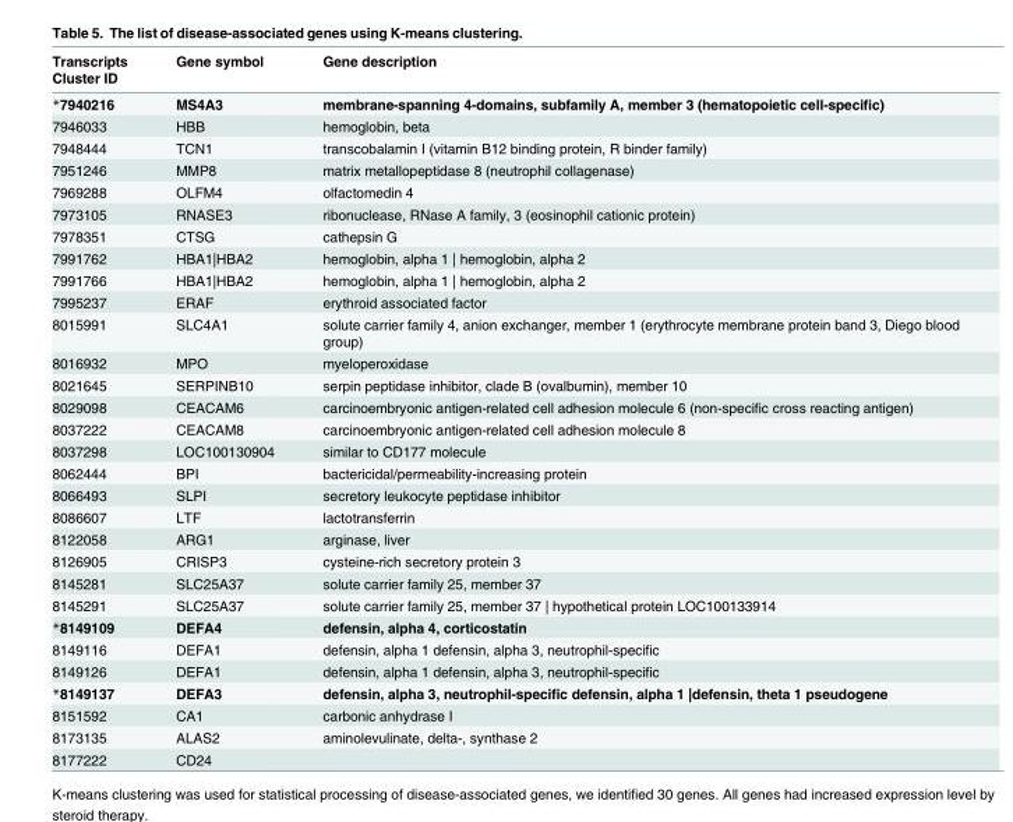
<table><thead><tr><td>Transcripts Cluster ID</td><td>Gene symbol</td><td>Gene description</td></tr></thead><tbody><tr><td>*7940216</td><td>MS4A3</td><td>membrane-spanning 4-domains, subfamily A, member 3 (hematopoietic cell-specific)</td></tr><tr><td>7946033</td><td>HBB</td><td>hemoglobin, beta</td></tr><tr><td>7948444</td><td>TCN1</td><td>transcobalamin I (vitamin B12 binding protein, R binder family)</td></tr><tr><td>7951246</td><td>MMP8</td><td>matrix metallopeptidase 8 (neutrophil collagenase)</td></tr><tr><td>7969288</td><td>OLFM4</td><td>olfactomedin 4</td></tr><tr><td>7973105</td><td>RNASE3</td><td>ribonuclease, RNase A family, 3 (eosinophil cationic protein)</td></tr><tr><td>7978351</td><td>CTSG</td><td>cathepsin G</td></tr><tr><td>7991762</td><td>HBA1|HBA2</td><td>hemoglobin, alpha 1 | hemoglobin, alpha 2</td></tr><tr><td>7991766</td><td>HBA1|HBA2</td><td>hemoglobin, alpha 1 | hemoglobin, alpha 2</td></tr><tr><td>7995237</td><td>ERAF</td><td>erythroid associated factor</td></tr><tr><td>8015991</td><td>SLC4A1</td><td>solute carrier family 4, anion exchanger, member 1 (erythrocyte membrane protein band 3, Diego blood group)</td></tr><tr><td>8016932</td><td>MPO</td><td>myeloperoxidase</td></tr><tr><td>8021645</td><td>SERPINB10</td><td>serpin peptidase inhibitor, clade B (ovalbumin), member 10</td></tr><tr><td>8029098</td><td>CEACAM6</td><td>carcinoembryonic antigen-related cell adhesion molecule 6 (non-specific cross reacting antigen)</td></tr><tr><td>8037222</td><td>CEACAM8</td><td>carcinoembryonic antigen-related cell adhesion molecule 8</td></tr><tr><td>8037298</td><td>LOC100130904</td><td>similar to CD177 molecule</td></tr><tr><td>8062444</td><td>BPI</td><td>bactericidal/permeability-increasing protein</td></tr><tr><td>8066493</td><td>SLPI</td><td>secretory leukocyte peptidase inhibitor</td></tr><tr><td>8086607</td><td>LTF</td><td>lactotransferrin</td></tr><tr><td>8122058</td><td>ARG1</td><td>arginase, liver</td></tr><tr><td>8126905</td><td>CRISP3</td><td>cysteine-rich secretory protein 3</td></tr><tr><td>8145281</td><td>SLC25A37</td><td>solute carrier family 25, member 37</td></tr><tr><td>8145291</td><td>SLC25A37</td><td>solute carrier family 25, member 37 | hypothetical protein LOC100133914</td></tr><tr><td>*8149109</td><td>DEFA4</td><td>defensin, alpha 4, corticostatin</td></tr><tr><td>8149116</td><td>DEFA1</td><td>defensin, alpha 1 defensin, alpha 3, neutrophil-specific</td></tr><tr><td>8149126</td><td>DEFA1</td><td>defensin, alpha 1 defensin, alpha 3, neutrophil-specific</td></tr><tr><td>*8149137</td><td>DEFA3</td><td>defensin, alpha 3, neutrophil-specific defensin, alpha 1 |defensin, theta 1 pseudogene</td></tr><tr><td>8151592</td><td>CA1</td><td>carbonic anhydrase I</td></tr><tr><td>8173135</td><td>ALAS2</td><td>aminolevulinate, delta-, synthase 2</td></tr><tr><td>8177222</td><td>CD24</td><td></td></tr></tbody></table>